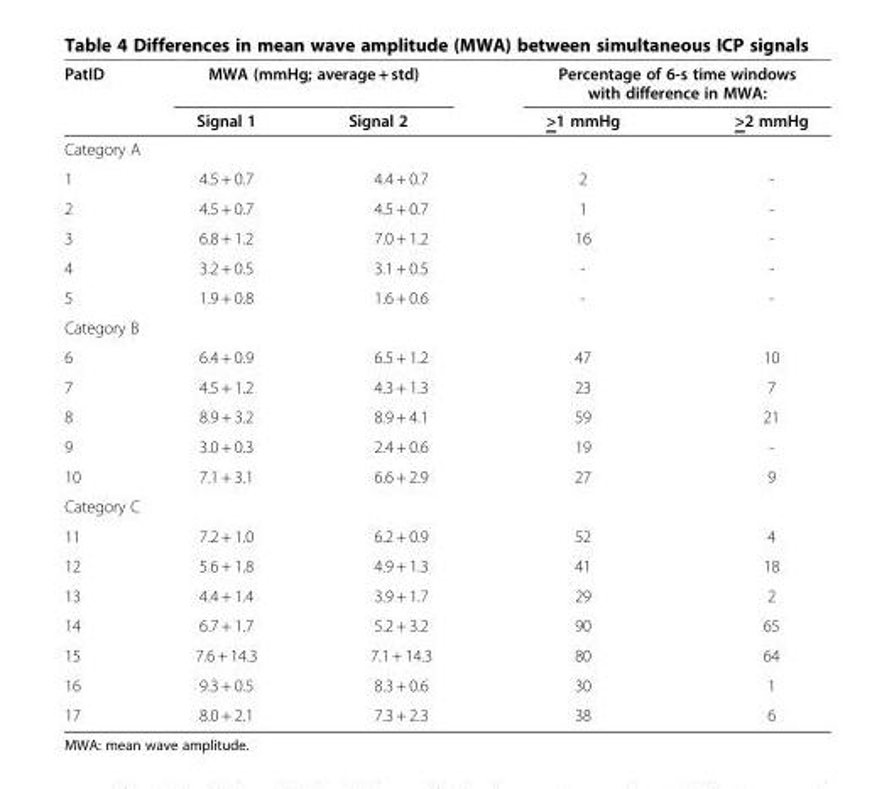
<table><thead><tr><td rowspan="2">PatID</td><td colspan="2">MWA (mmHg; average + std)</td><td colspan="2">Percentage of 6-s time windows with difference in MWA:</td></tr><tr><td>Signal 1</td><td>Signal 2</td><td>&gt;1 mmHg</td><td>&gt;2 mmHg</td></tr></thead><tbody><tr><td colspan="5">Category A</td></tr><tr><td>1</td><td>4.5 + 0.7</td><td>4.4 + 0.7</td><td>2</td><td>-</td></tr><tr><td>2</td><td>4.5 + 0.7</td><td>4.5 + 0.7</td><td>1</td><td>-</td></tr><tr><td>3</td><td>6.8 + 1.2</td><td>7.0 + 1.2</td><td>16</td><td>-</td></tr><tr><td>4</td><td>3.2 + 0.5</td><td>3.1 + 0.5</td><td>-</td><td>-</td></tr><tr><td>5</td><td>1.9 + 0.8</td><td>1.6 + 0.6</td><td>-</td><td>-</td></tr><tr><td colspan="5">Category B</td></tr><tr><td>6</td><td>6.4 + 0.9</td><td>6.5 + 1.2</td><td>47</td><td>10</td></tr><tr><td>7</td><td>4.5 + 1.2</td><td>4.3 + 1.3</td><td>23</td><td>7</td></tr><tr><td>8</td><td>8.9 + 3.2</td><td>8.9 + 4.1</td><td>59</td><td>21</td></tr><tr><td>9</td><td>3.0 + 0.3</td><td>2.4 + 0.6</td><td>19</td><td>-</td></tr><tr><td>10</td><td>7.1 + 3.1</td><td>6.6 + 2.9</td><td>27</td><td>9</td></tr><tr><td colspan="5">Category C</td></tr><tr><td>11</td><td>7.2 + 1.0</td><td>6.2 + 0.9</td><td>52</td><td>4</td></tr><tr><td>12</td><td>5.6 + 1.8</td><td>4.9 + 1.3</td><td>41</td><td>18</td></tr><tr><td>13</td><td>4.4 + 1.4</td><td>3.9 + 1.7</td><td>29</td><td>2</td></tr><tr><td>14</td><td>6.7 + 1.7</td><td>5.2 + 3.2</td><td>90</td><td>65</td></tr><tr><td>15</td><td>7.6 + 14.3</td><td>7.1 + 14.3</td><td>80</td><td>64</td></tr><tr><td>16</td><td>9.3 + 0.5</td><td>8.3 + 0.6</td><td>30</td><td>1</td></tr><tr><td>17</td><td>8.0 + 2.1</td><td>7.3 + 2.3</td><td>38</td><td>6</td></tr></tbody></table>